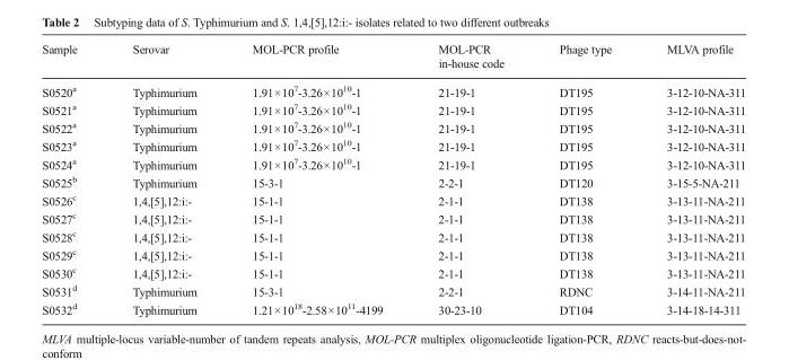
<table><thead><tr><td>Sample</td><td>Serovar</td><td>MOL-PCR profile</td><td>MOL-PCR in-house code</td><td>Phage type</td><td>MLVA profile</td></tr></thead><tbody><tr><td>S0520<sup>a</sup></td><td>Typhimurium</td><td>1.91×10<sup>7</sup>-3.26×10<sup>10</sup>-1</td><td>21-19-1</td><td>DT195</td><td>3-12-10-NA-311</td></tr><tr><td>S0521<sup>a</sup></td><td>Typhimurium</td><td>1.91×10<sup>7</sup>-3.26×10<sup>10</sup>-1</td><td>21-19-1</td><td>DT195</td><td>3-12-10-NA-311</td></tr><tr><td>S0522<sup>a</sup></td><td>Typhimurium</td><td>1.91×10<sup>7</sup>-3.26×10<sup>10</sup>-1</td><td>21-19-1</td><td>DT195</td><td>3-12-10-NA-311</td></tr><tr><td>S0523<sup>a</sup></td><td>Typhimurium</td><td>1.91×10<sup>7</sup>-3.26×10<sup>10</sup>-1</td><td>21-19-1</td><td>DT195</td><td>3-12-10-NA-311</td></tr><tr><td>S0524<sup>a</sup></td><td>Typhimurium</td><td>1.91×10<sup>7</sup>-3.26×10<sup>10</sup>-1</td><td>21-19-1</td><td>DT195</td><td>3-12-10-NA-311</td></tr><tr><td>S0525<sup>b</sup></td><td>Typhimurium</td><td>15-3-1</td><td>2-2-1</td><td>DT120</td><td>3-15-5-NA-211</td></tr><tr><td>S0526<sup>c</sup></td><td>1,4,[5],12:i:-</td><td>15-1-1</td><td>2-1-1</td><td>DT138</td><td>3-13-11-NA-211</td></tr><tr><td>S0527<sup>c</sup></td><td>1,4,[5],12:i:-</td><td>15-1-1</td><td>2-1-1</td><td>DT138</td><td>3-13-11-NA-211</td></tr><tr><td>S0528<sup>c</sup></td><td>1,4,[5],12:i:-</td><td>15-1-1</td><td>2-1-1</td><td>DT138</td><td>3-13-11-NA-211</td></tr><tr><td>S0529<sup>c</sup></td><td>1,4,[5],12:i:-</td><td>15-1-1</td><td>2-1-1</td><td>DT138</td><td>3-13-11-NA-211</td></tr><tr><td>S0530<sup>c</sup></td><td>1,4,[5],12:i:-</td><td>15-1-1</td><td>2-1-1</td><td>DT138</td><td>3-13-11-NA-211</td></tr><tr><td>S0531<sup>d</sup></td><td>Typhimurium</td><td>15-3-1</td><td>2-2-1</td><td>RDNC</td><td>3-14-11-NA-211</td></tr><tr><td>S0532<sup>d</sup></td><td>Typhimurium</td><td>1.21×10<sup>18</sup>-2.58×10<sup>11</sup>-4199</td><td>30-23-10</td><td>DT104</td><td>3-14-18-14-311</td></tr></tbody></table>